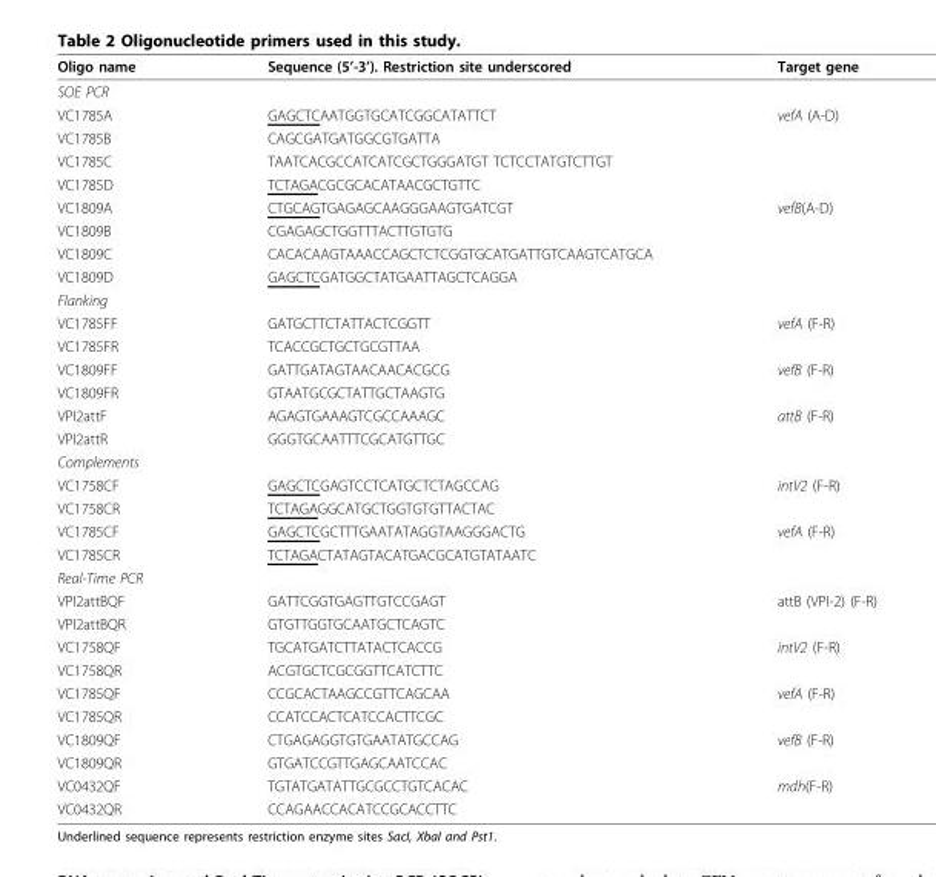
<table><thead><tr><td>Oligo name</td><td>Sequence (5’-3’). Restriction site underscored</td><td>Target gene</td></tr></thead><tbody><tr><td colspan="3">SOE PCR</td></tr><tr><td>VC1785A</td><td>GAGCTCAATGGTGCATCGGCATATTCT</td><td>vefA (A-D)</td></tr><tr><td>VC1785B</td><td>CAGCGATGATGGCGTGATTA</td><td></td></tr><tr><td>VC1785C</td><td>TAATCACGCCATCATCGCTGGGATGT TCTCCTATGTCTTGT</td><td></td></tr><tr><td>VC1785D</td><td>TCTAGACGCGCACATAACGCTGTTC</td><td></td></tr><tr><td>VC1809A</td><td>CTGCAGTGAGAGCAAGGGAAGTGATCGT</td><td>vefB(A-D)</td></tr><tr><td>VC1809B</td><td>CGAGAGCTGGTTTACTTGTGTG</td><td></td></tr><tr><td>VC1809C</td><td>CACACAAGTAAACCAGCTCTCGGTGCATGATTGTCAAGTCATGCA</td><td></td></tr><tr><td>VC1809D</td><td>GAGCTCGATGGCTATGAATTAGCTCAGGA</td><td></td></tr><tr><td colspan="3">Flanking</td></tr><tr><td>VC1785FF</td><td>GATGCTTCTATTACTCGGTT</td><td>vefA (F-R)</td></tr><tr><td>VC1785FR</td><td>TCACCGCTGCTGCGTTAA</td><td></td></tr><tr><td>VC1809FF</td><td>GATTGATAGTAACAACACGCG</td><td>vefB (F-R)</td></tr><tr><td>VC1809FR</td><td>GTAATGCGCTATTGCTAAGTG</td><td></td></tr><tr><td>VPI2attF</td><td>AGAGTGAAAGTCGCCAAAGC</td><td>attB (F-R)</td></tr><tr><td>VPI2attR</td><td>GGGTGCAATTTCGCATGTTGC</td><td></td></tr><tr><td colspan="3">Complements</td></tr><tr><td>VC1758CF</td><td>GAGCTCGAGTCCTCATGCTCTAGCCAG</td><td>intV2 (F-R)</td></tr><tr><td>VC1758CR</td><td>TCTAGAGGCATGCTGGTGTGTTACTAC</td><td></td></tr><tr><td>VC1785CF</td><td>GAGCTCGCTTTGAATATAGGTAAGGGACTG</td><td>vefA (F-R)</td></tr><tr><td>VC1785CR</td><td>TCTAGACTATAGTACATGACGCATGTATAATC</td><td></td></tr><tr><td colspan="3">Real-Time PCR</td></tr><tr><td>VPI2attBQF</td><td>GATTCGGTGAGTTGTCCGAGT</td><td>attB (VPI-2) (F-R)</td></tr><tr><td>VPI2attBQR</td><td>GTGTTGGTGCAATGCTCAGTC</td><td></td></tr><tr><td>VC1758QF</td><td>TGCATGATCTTATACTCACCG</td><td>intV2 (F-R)</td></tr><tr><td>VC1758QR</td><td>ACGTGCTCGCGGTTCATCTTC</td><td></td></tr><tr><td>VC1785QF</td><td>CCGCACTAAGCCGTTCAGCAA</td><td>vefA (F-R)</td></tr><tr><td>VC1785QR</td><td>CCATCCACTCATCCACTTCGC</td><td></td></tr><tr><td>VC1809QF</td><td>CTGAGAGGTGTGAATATGCCAG</td><td>vefB (F-R)</td></tr><tr><td>VC1809QR</td><td>GTGATCCGTTGAGCAATCCAC</td><td></td></tr><tr><td>VC0432QF</td><td>TGTATGATATTGCGCCTGTCACAC</td><td>mdh(F-R)</td></tr><tr><td>VC0432QR</td><td>CCAGAACCACATCCGCACCTTC</td><td></td></tr></tbody></table>